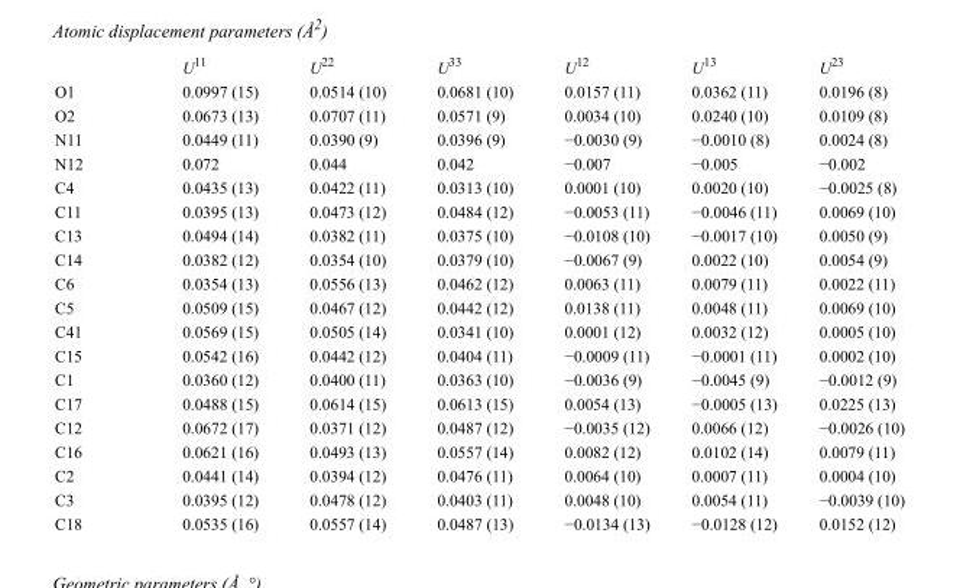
<table><thead><tr><td></td><td>U<sup>11</sup></td><td>U<sup>22</sup></td><td>U<sup>33</sup></td><td>U<sup>12</sup></td><td>U<sup>13</sup></td><td>U<sup>23</sup></td></tr></thead><tbody><tr><td>O1</td><td>0.0997 (15)</td><td>0.0514 (10)</td><td>0.0681 (10)</td><td>0.0157 (11)</td><td>0.0362 (11)</td><td>0.0196 (8)</td></tr><tr><td>O2</td><td>0.0673 (13)</td><td>0.0707 (11)</td><td>0.0571 (9)</td><td>0.0034 (10)</td><td>0.0240 (10)</td><td>0.0109 (8)</td></tr><tr><td>N11</td><td>0.0449 (11)</td><td>0.0390 (9)</td><td>0.0396 (9)</td><td>−0.0030 (9)</td><td>−0.0010 (8)</td><td>0.0024 (8)</td></tr><tr><td>N12</td><td>0.072</td><td>0.044</td><td>0.042</td><td>−0.007</td><td>−0.005</td><td>−0.002</td></tr><tr><td>C4</td><td>0.0435 (13)</td><td>0.0422 (11)</td><td>0.0313 (10)</td><td>0.0001 (10)</td><td>0.0020 (10)</td><td>−0.0025 (8)</td></tr><tr><td>C11</td><td>0.0395 (13)</td><td>0.0473 (12)</td><td>0.0484 (12)</td><td>−0.0053 (11)</td><td>−0.0046 (11)</td><td>0.0069 (10)</td></tr><tr><td>C13</td><td>0.0494 (14)</td><td>0.0382 (11)</td><td>0.0375 (10)</td><td>−0.0108 (10)</td><td>−0.0017 (10)</td><td>0.0050 (9)</td></tr><tr><td>C14</td><td>0.0382 (12)</td><td>0.0354 (10)</td><td>0.0379 (10)</td><td>−0.0067 (9)</td><td>0.0022 (10)</td><td>0.0054 (9)</td></tr><tr><td>C6</td><td>0.0354 (13)</td><td>0.0556 (13)</td><td>0.0462 (12)</td><td>0.0063 (11)</td><td>0.0079 (11)</td><td>0.0022 (11)</td></tr><tr><td>C5</td><td>0.0509 (15)</td><td>0.0467 (12)</td><td>0.0442 (12)</td><td>0.0138 (11)</td><td>0.0048 (11)</td><td>0.0069 (10)</td></tr><tr><td>C41</td><td>0.0569 (15)</td><td>0.0505 (14)</td><td>0.0341 (10)</td><td>0.0001 (12)</td><td>0.0032 (12)</td><td>0.0005 (10)</td></tr><tr><td>C15</td><td>0.0542 (16)</td><td>0.0442 (12)</td><td>0.0404 (11)</td><td>−0.0009 (11)</td><td>−0.0001 (11)</td><td>0.0002 (10)</td></tr><tr><td>C1</td><td>0.0360 (12)</td><td>0.0400 (11)</td><td>0.0363 (10)</td><td>−0.0036 (9)</td><td>−0.0045 (9)</td><td>−0.0012 (9)</td></tr><tr><td>C17</td><td>0.0488 (15)</td><td>0.0614 (15)</td><td>0.0613 (15)</td><td>0.0054 (13)</td><td>−0.0005 (13)</td><td>0.0225 (13)</td></tr><tr><td>C12</td><td>0.0672 (17)</td><td>0.0371 (12)</td><td>0.0487 (12)</td><td>−0.0035 (12)</td><td>0.0066 (12)</td><td>−0.0026 (10)</td></tr><tr><td>C16</td><td>0.0621 (16)</td><td>0.0493 (13)</td><td>0.0557 (14)</td><td>0.0082 (12)</td><td>0.0102 (14)</td><td>0.0079 (11)</td></tr><tr><td>C2</td><td>0.0441 (14)</td><td>0.0394 (12)</td><td>0.0476 (11)</td><td>0.0064 (10)</td><td>0.0007 (11)</td><td>0.0004 (10)</td></tr><tr><td>C3</td><td>0.0395 (12)</td><td>0.0478 (12)</td><td>0.0403 (11)</td><td>0.0048 (10)</td><td>0.0054 (11)</td><td>−0.0039 (10)</td></tr><tr><td>C18</td><td>0.0535 (16)</td><td>0.0557 (14)</td><td>0.0487 (13)</td><td>−0.0134 (13)</td><td>−0.0128 (12)</td><td>0.0152 (12)</td></tr></tbody></table>